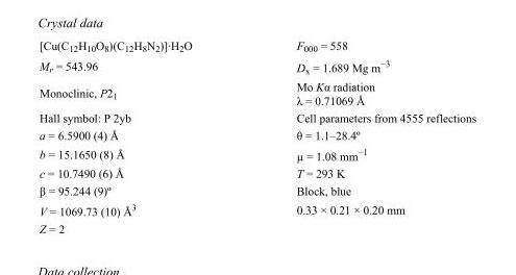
<table><tbody><tr><td>[Cu(C<sub>12</sub>H<sub>10</sub>O<sub>8</sub>)(C<sub>12</sub>H<sub>8</sub>N<sub>2</sub>)]·H<sub>2</sub>O</td><td>F<sub>000</sub> = 558</td></tr><tr><td>M<sub>r</sub> = 543.96</td><td>D<sub>x</sub> = 1.689 Mg m<sup>−3</sup></td></tr><tr><td>Monoclinic, P2<sub>1</sub></td><td>Mo Kα radiation λ = 0.71069 Å</td></tr><tr><td>Hall symbol: P 2yb</td><td>Cell parameters from 4555 reflections</td></tr><tr><td>a = 6.5900 (4) Å</td><td>θ = 1.1–28.4º</td></tr><tr><td>b = 15.1650 (8) Å</td><td>µ = 1.08 mm<sup>−1</sup></td></tr><tr><td>c = 10.7490 (6) Å</td><td>T = 293 K</td></tr><tr><td>β = 95.244 (9)º</td><td>Block, blue</td></tr><tr><td>V = 1069.73 (10) Å<sup>3</sup></td><td>0.33 × 0.21 × 0.20 mm</td></tr><tr><td>Z = 2</td><td></td></tr></tbody></table>